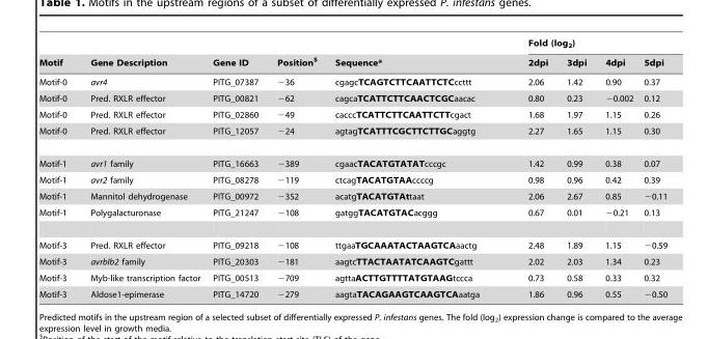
<table><thead><tr><td rowspan="2">Motif</td><td rowspan="2">Gene Description</td><td rowspan="2">Gene ID</td><td rowspan="2">Position$</td><td rowspan="2">Sequence*</td><td colspan="4">Fold (log<sub>2</sub>)</td></tr><tr><td>2dpi</td><td>3dpi</td><td>4dpi</td><td>5dpi</td></tr></thead><tbody><tr><td>Motif-0</td><td>avr4</td><td>PITG_07387</td><td>−36</td><td>cgagcTCAGTCTTCAATTCTCccttt</td><td>2.06</td><td>1.42</td><td>0.90</td><td>0.37</td></tr><tr><td>Motif-0</td><td>Pred. RXLR effector</td><td>PITG_00821</td><td>−62</td><td>cagcaTCATTCTTCAACTCGCaacac</td><td>0.80</td><td>0.23</td><td>−0.002</td><td>0.12</td></tr><tr><td>Motif-0</td><td>Pred. RXLR effector</td><td>PITG_02860</td><td>−49</td><td>cacccTCATTCTTCAATTCTTcgact</td><td>1.68</td><td>1.97</td><td>1.15</td><td>0.26</td></tr><tr><td>Motif-0</td><td>Pred. RXLR effector</td><td>PITG_12057</td><td>−24</td><td>agtagTCATTTCGCTTCTTGCaggtg</td><td>2.27</td><td>1.65</td><td>1.15</td><td>0.30</td></tr><tr><td>Motif-1</td><td>avr1 family</td><td>PITG_16663</td><td>−389</td><td>cgaacTACATGTATATcccgc</td><td>1.42</td><td>0.99</td><td>0.38</td><td>0.07</td></tr><tr><td>Motif-1</td><td>avr2 family</td><td>PITG_08278</td><td>−119</td><td>ctcagTACATGTAAccccg</td><td>0.98</td><td>0.96</td><td>0.42</td><td>0.39</td></tr><tr><td>Motif-1</td><td>Mannitol dehydrogenase</td><td>PITG_00972</td><td>−352</td><td>acatgTACATGTAttaat</td><td>2.06</td><td>2.67</td><td>0.85</td><td>−0.11</td></tr><tr><td>Motif-1</td><td>Polygalacturonase</td><td>PITG_21247</td><td>−108</td><td>gatggTACATGTACacggg</td><td>0.67</td><td>0.01</td><td>−0.21</td><td>0.13</td></tr><tr><td>Motif-3</td><td>Pred. RXLR effector</td><td>PITG_09218</td><td>−108</td><td>ttgaaTGCAAATACTAAGTCAaactg</td><td>2.48</td><td>1.89</td><td>1.15</td><td>−0.59</td></tr><tr><td>Motif-3</td><td>avrblb2 family</td><td>PITG_20303</td><td>−181</td><td>aagtcTTACTAATATCAAGTCgattt</td><td>2.02</td><td>2.03</td><td>1.34</td><td>0.23</td></tr><tr><td>Motif-3</td><td>Myb-like transcription factor</td><td>PITG_00513</td><td>−709</td><td>agttaACTTGTTTTATGTAAGtccca</td><td>0.73</td><td>0.58</td><td>0.33</td><td>0.32</td></tr><tr><td>Motif-3</td><td>Aldose1-epimerase</td><td>PITG_14720</td><td>−279</td><td>aagtaTACAGAAGTCAAGTCAaatga</td><td>1.86</td><td>0.96</td><td>0.55</td><td>−0.50</td></tr></tbody></table>